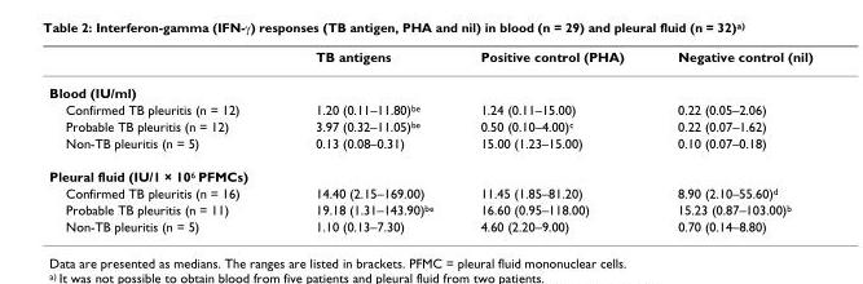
<table><thead><tr><td></td><td>TB antigens</td><td>Positive control (PHA)</td><td>Negative control (nil)</td></tr></thead><tbody><tr><td colspan="4">Blood (IU/ml)</td></tr><tr><td>Confirmed TB pleuritis (n = 12)</td><td>1.20 (0.11–11.80)<sup>be</sup></td><td>1.24 (0.11–15.00)</td><td>0.22 (0.05–2.06)</td></tr><tr><td>Probable TB pleuritis (n = 12)</td><td>3.97 (0.32–11.05)<sup>be</sup></td><td>0.50 (0.10–4.00)<sup>c</sup></td><td>0.22 (0.07–1.62)</td></tr><tr><td>Non-TB pleuritis (n = 5)</td><td>0.13 (0.08–0.31)</td><td>15.00 (1.23–15.00)</td><td>0.10 (0.07–0.18)</td></tr><tr><td colspan="4">Pleural fluid (IU/1 × 10<sup>6</sup> PFMCs)</td></tr><tr><td>Confirmed TB pleuritis (n = 16)</td><td>14.40 (2.15–169.00)</td><td>11.45 (1.85–81.20)</td><td>8.90 (2.10–55.60)<sup>d</sup></td></tr><tr><td>Probable TB pleuritis (n = 11)</td><td>19.18 (1.31–143.90)<sup>be</sup></td><td>16.60 (0.95–118.00)</td><td>15.23 (0.87–103.00)<sup>b</sup></td></tr><tr><td>Non-TB pleuritis (n = 5)</td><td>1.10 (0.13–7.30)</td><td>4.60 (2.20–9.00)</td><td>0.70 (0.14–8.80)</td></tr></tbody></table>